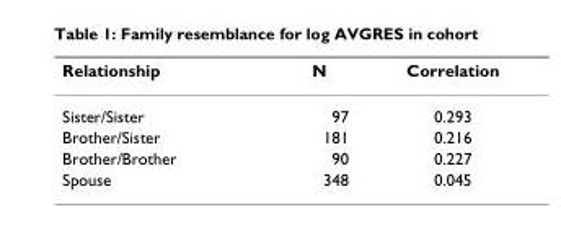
<table><thead><tr><td>Relationship</td><td>N</td><td>Correlation</td></tr></thead><tbody><tr><td>Sister/Sister</td><td>97</td><td>0.293</td></tr><tr><td>Brother/Sister</td><td>181</td><td>0.216</td></tr><tr><td>Brother/Brother</td><td>90</td><td>0.227</td></tr><tr><td>Spouse</td><td>348</td><td>0.045</td></tr></tbody></table>